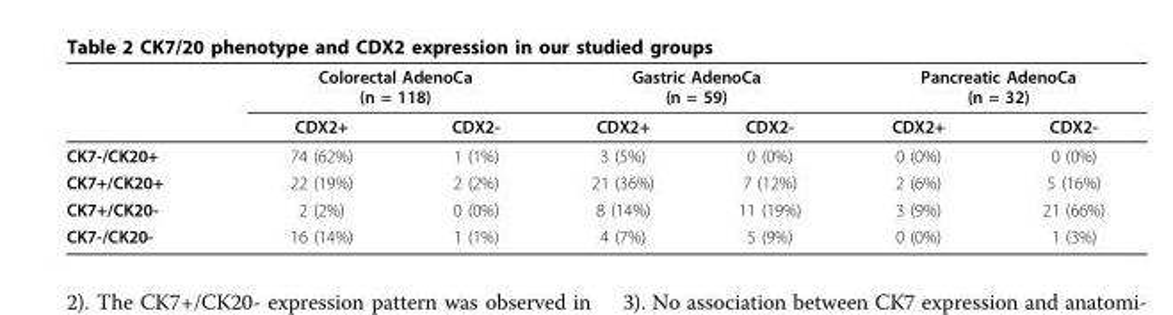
<table><thead><tr><td rowspan="2"></td><td colspan="2">Colorectal AdenoCa (n = 118)</td><td colspan="2">Gastric AdenoCa (n = 59)</td><td colspan="2">Pancreatic AdenoCa (n = 32)</td></tr><tr><td>CDX2+</td><td>CDX2-</td><td>CDX2+</td><td>CDX2-</td><td>CDX2+</td><td>CDX2-</td></tr></thead><tbody><tr><td>CK7-/CK20+</td><td>74 (62%)</td><td>1 (1%)</td><td>3 (5%)</td><td>0 (0%)</td><td>0 (0%)</td><td>0 (0%)</td></tr><tr><td>CK7+/CK20+</td><td>22 (19%)</td><td>2 (2%)</td><td>21 (36%)</td><td>7 (12%)</td><td>2 (6%)</td><td>5 (16%)</td></tr><tr><td>CK7+/CK20-</td><td>2 (2%)</td><td>0 (0%)</td><td>8 (14%)</td><td>11 (19%)</td><td>3 (9%)</td><td>21 (66%)</td></tr><tr><td>CK7-/CK20-</td><td>16 (14%)</td><td>1 (1%)</td><td>4 (7%)</td><td>5 (9%)</td><td>0 (0%)</td><td>1 (3%)</td></tr></tbody></table>